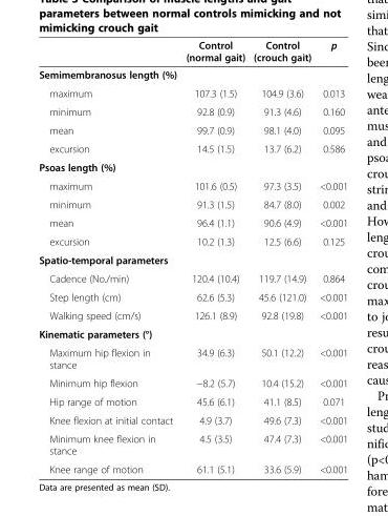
<table><thead><tr><td></td><td>Control (normal gait)</td><td>Control (crouch gait)</td><td>p</td></tr></thead><tbody><tr><td colspan="4">Semimembranosus length (%)</td></tr><tr><td>maximum</td><td>107.3 (1.5)</td><td>104.9 (3.6)</td><td>0.013</td></tr><tr><td>minimum</td><td>92.8 (0.9)</td><td>91.3 (4.6)</td><td>0.160</td></tr><tr><td>mean</td><td>99.7 (0.9)</td><td>98.1 (4.0)</td><td>0.095</td></tr><tr><td>excursion</td><td>14.5 (1.5)</td><td>13.7 (6.2)</td><td>0.586</td></tr><tr><td colspan="4">Psoas length (%)</td></tr><tr><td>maximum</td><td>101.6 (0.5)</td><td>97.3 (3.5)</td><td>&lt;0.001</td></tr><tr><td>minimum</td><td>91.3 (1.5)</td><td>84.7 (8.0)</td><td>0.002</td></tr><tr><td>mean</td><td>96.4 (1.1)</td><td>90.6 (4.9)</td><td>&lt;0.001</td></tr><tr><td>excursion</td><td>10.2 (1.3)</td><td>12.5 (6.6)</td><td>0.125</td></tr><tr><td colspan="4">Spatio-temporal parameters</td></tr><tr><td>Cadence (No./min)</td><td>120.4 (10.4)</td><td>119.7 (14.9)</td><td>0.864</td></tr><tr><td>Step length (cm)</td><td>62.6 (5.3)</td><td>45.6 (121.0)</td><td>&lt;0.001</td></tr><tr><td>Walking speed (cm/s)</td><td>126.1 (8.9)</td><td>92.8 (19.8)</td><td>&lt;0.001</td></tr><tr><td colspan="4">Kinematic parameters (°)</td></tr><tr><td>Maximum hip flexion in stance</td><td>34.9 (6.3)</td><td>50.1 (12.2)</td><td>&lt;0.001</td></tr><tr><td>Minimum hip flexion</td><td>−8.2 (5.7)</td><td>10.4 (15.2)</td><td>&lt;0.001</td></tr><tr><td>Hip range of motion</td><td>45.6 (6.1)</td><td>41.1 (8.5)</td><td>0.071</td></tr><tr><td>Knee flexion at initial contact</td><td>4.9 (3.7)</td><td>49.6 (7.3)</td><td>&lt;0.001</td></tr><tr><td>Minimum knee flexion in stance</td><td>4.5 (3.5)</td><td>47.4 (7.3)</td><td>&lt;0.001</td></tr><tr><td>Knee range of motion</td><td>61.1 (5.1)</td><td>33.6 (5.9)</td><td>&lt;0.001</td></tr></tbody></table>